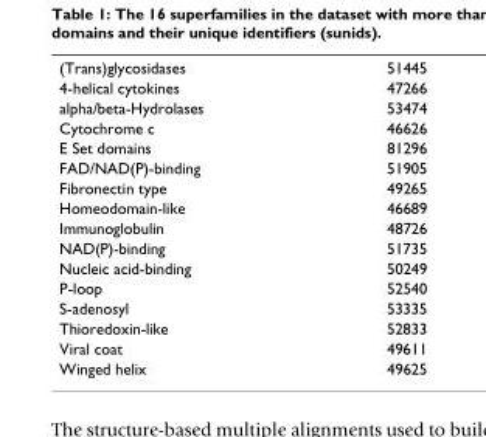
<table><tbody><tr><td>(Trans)glycosidases</td><td>51445</td></tr><tr><td>4-helical cytokines</td><td>47266</td></tr><tr><td>alpha/beta-Hydrolases</td><td>53474</td></tr><tr><td>Cytochrome c</td><td>46626</td></tr><tr><td>E Set domains</td><td>81296</td></tr><tr><td>FAD/NAD(P)-binding</td><td>51905</td></tr><tr><td>Fibronectin type</td><td>49265</td></tr><tr><td>Homeodomain-like</td><td>46689</td></tr><tr><td>Immunoglobulin</td><td>48726</td></tr><tr><td>NAD(P)-binding</td><td>51735</td></tr><tr><td>Nucleic acid-binding</td><td>50249</td></tr><tr><td>P-loop</td><td>52540</td></tr><tr><td>S-adenosyl</td><td>53335</td></tr><tr><td>Thioredoxin-like</td><td>52833</td></tr><tr><td>Viral coat</td><td>49611</td></tr><tr><td>Winged helix</td><td>49625</td></tr></tbody></table>